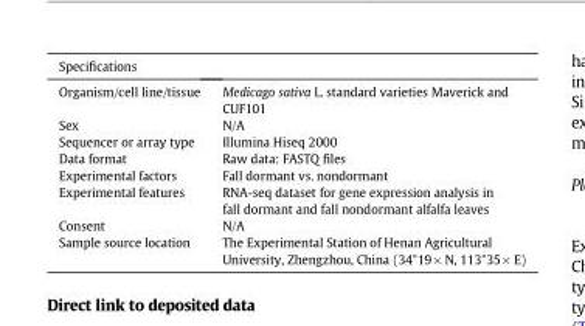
<table><thead><tr><td>Specifications</td><td></td></tr></thead><tbody><tr><td>Organism/cell line/tissue</td><td>Medicago sativa L. standard varieties Maverick and CUF101</td></tr><tr><td>Sex</td><td>N/A</td></tr><tr><td>Sequencer or array type</td><td>Illumina Hiseq 2000</td></tr><tr><td>Data format</td><td>Raw data: FASTQ files</td></tr><tr><td>Experimental factors</td><td>Fall dormant vs. nondormant</td></tr><tr><td>Experimental features</td><td>RNA-seq dataset for gene expression analysis in fall dormant and fall nondormant alfalfa leaves</td></tr><tr><td>Consent</td><td>N/A</td></tr><tr><td>Sample source location</td><td>The Experimental Station of Henan Agricultural University, Zhengzhou, China (34°19× N, 113°35× E)</td></tr></tbody></table>